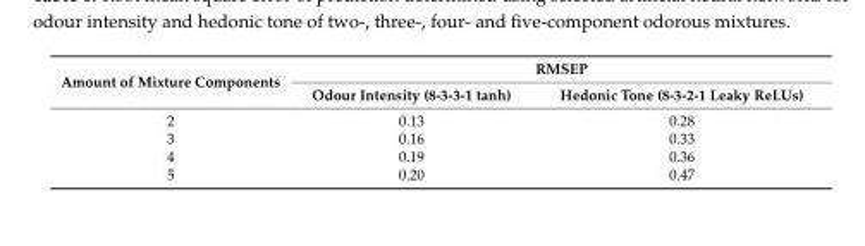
<table><thead><tr><td rowspan="2">Amount of Mixture Components</td><td colspan="2">RMSEP</td></tr><tr><td>Odour Intensity (8-3-3-1 tanh)</td><td>Hedonic Tone (8-3-2-1 Leaky ReLUs)</td></tr></thead><tbody><tr><td>2</td><td>0.13</td><td>0.28</td></tr><tr><td>3</td><td>0.16</td><td>0.33</td></tr><tr><td>4</td><td>0.19</td><td>0.36</td></tr><tr><td>5</td><td>0.20</td><td>0.47</td></tr></tbody></table>